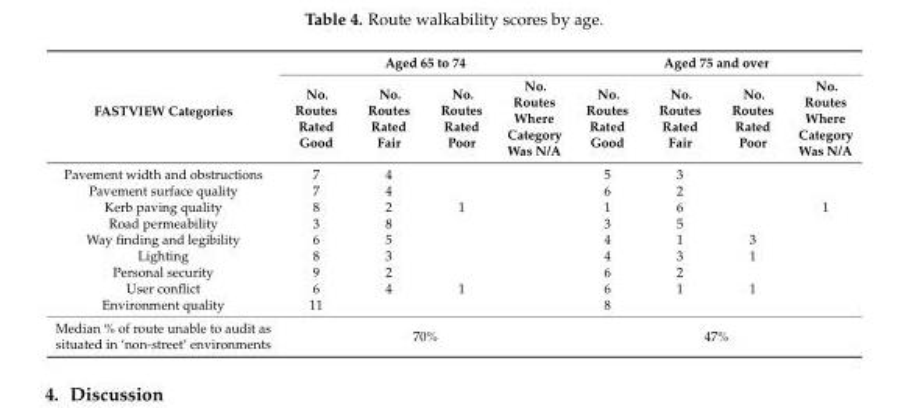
<table><thead><tr><td rowspan="2">FASTVIEW Categories</td><td colspan="4">Aged 65 to 74</td><td colspan="4">Aged 75 and over</td></tr><tr><td>No. Routes Rated Good</td><td>No. Routes Rated Fair</td><td>No. Routes Rated Poor</td><td>No. Routes Where Category Was N/A</td><td>No. Routes Rated Good</td><td>No. Routes Rated Fair</td><td>No. Routes Rated Poor</td><td>No. Routes Where Category Was N/A</td></tr></thead><tbody><tr><td>Pavement width and obstructions</td><td>7</td><td>4</td><td></td><td></td><td>5</td><td>3</td><td></td><td></td></tr><tr><td>Pavement surface quality</td><td>7</td><td>4</td><td></td><td></td><td>6</td><td>2</td><td></td><td></td></tr><tr><td>Kerb paving quality</td><td>8</td><td>2</td><td>1</td><td></td><td>1</td><td>6</td><td></td><td>1</td></tr><tr><td>Road permeability</td><td>3</td><td>8</td><td></td><td></td><td>3</td><td>5</td><td></td><td></td></tr><tr><td>Way finding and legibility</td><td>6</td><td>5</td><td></td><td></td><td>4</td><td>1</td><td>3</td><td></td></tr><tr><td>Lighting</td><td>8</td><td>3</td><td></td><td></td><td>4</td><td>3</td><td>1</td><td></td></tr><tr><td>Personal security</td><td>9</td><td>2</td><td></td><td></td><td>6</td><td>2</td><td></td><td></td></tr><tr><td>User conflict</td><td>6</td><td>4</td><td>1</td><td></td><td>6</td><td>1</td><td>1</td><td></td></tr><tr><td>Environment quality</td><td>11</td><td></td><td></td><td></td><td>8</td><td></td><td></td><td></td></tr><tr><td>Median % of route unable to audit as situated in ‘non-street’ environments</td><td colspan="4">70%</td><td colspan="4">47%</td></tr></tbody></table>